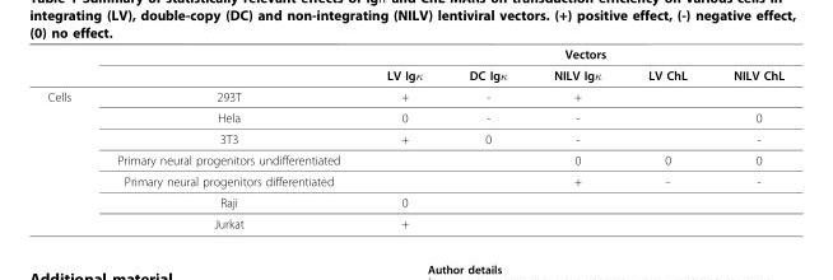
<table><thead><tr><td rowspan="2"></td><td rowspan="2"></td><td colspan="5">Vectors</td></tr><tr><td>LV Igκ</td><td>DC Igκ</td><td>NILV Igκ</td><td>LV ChL</td><td>NILV ChL</td></tr></thead><tbody><tr><td rowspan="7">Cells</td><td>293T</td><td>+</td><td>-</td><td>+</td><td></td><td></td></tr><tr><td>Hela</td><td>0</td><td>-</td><td>-</td><td></td><td>0</td></tr><tr><td>3T3</td><td>+</td><td>0</td><td>-</td><td></td><td>-</td></tr><tr><td>Primary neural progenitors undifferentiated</td><td></td><td></td><td>0</td><td>0</td><td>0</td></tr><tr><td>Primary neural progenitors differentiated</td><td></td><td></td><td>+</td><td>-</td><td>-</td></tr><tr><td>Raji</td><td>0</td><td></td><td></td><td></td><td></td></tr><tr><td>Jurkat</td><td>+</td><td></td><td></td><td></td><td></td></tr></tbody></table>